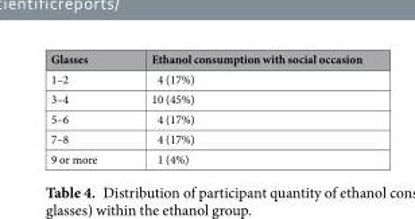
<table><thead><tr><td>Glasses</td><td>Ethanol consumption with social occasion</td></tr></thead><tbody><tr><td>1–2</td><td>4 (17%)</td></tr><tr><td>3–4</td><td>10 (45%)</td></tr><tr><td>5–6</td><td>4 (17%)</td></tr><tr><td>7–8</td><td>4 (17%)</td></tr><tr><td>9 or more</td><td>1 (4%)</td></tr></tbody></table>